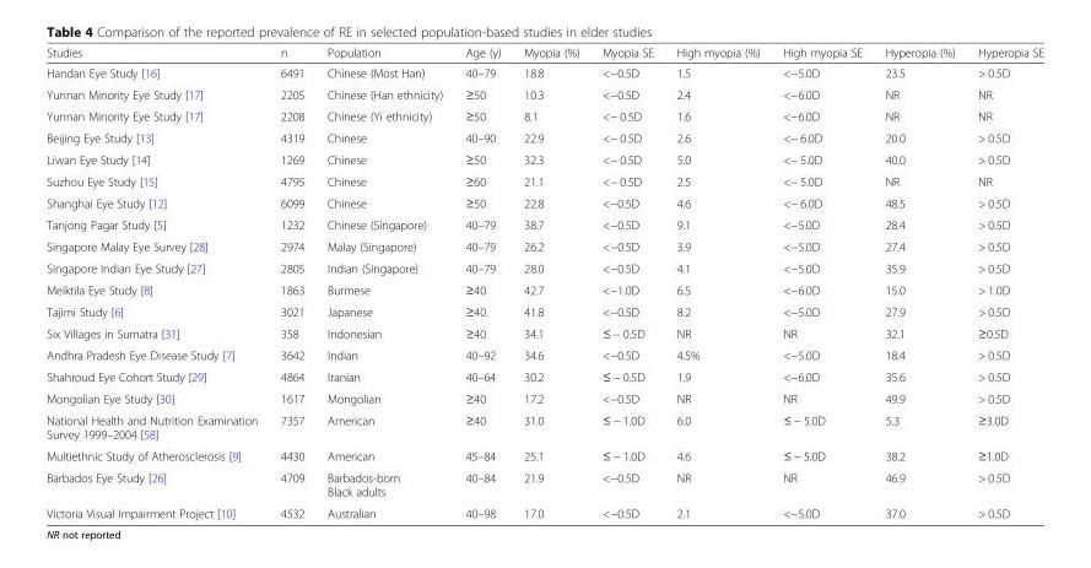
<table><thead><tr><td>Studies</td><td>n</td><td>Population</td><td>Age (y)</td><td>Myopia (%)</td><td>Myopia SE</td><td>High myopia (%)</td><td>High myopia SE</td><td>Hyperopia (%)</td><td>Hyperopia SE</td></tr></thead><tbody><tr><td>Handan Eye Study [16]</td><td>6491</td><td>Chinese (Most Han)</td><td>40–79</td><td>18.8</td><td>&lt;−0.5D</td><td>1.5</td><td>&lt;−5.0D</td><td>23.5</td><td>&gt; 0.5D</td></tr><tr><td>Yunnan Minority Eye Study [17]</td><td>2205</td><td>Chinese (Han ethnicity)</td><td>≥50</td><td>10.3</td><td>&lt;−0.5D</td><td>2.4</td><td>&lt;−6.0D</td><td>NR</td><td>NR</td></tr><tr><td>Yunnan Minority Eye Study [17]</td><td>2208</td><td>Chinese (Yi ethnicity)</td><td>≥50</td><td>8.1</td><td>&lt;− 0.5D</td><td>1.6</td><td>&lt;−6.0D</td><td>NR</td><td>NR</td></tr><tr><td>Beijing Eye Study [13]</td><td>4319</td><td>Chinese</td><td>40–90</td><td>22.9</td><td>&lt;− 0.5D</td><td>2.6</td><td>&lt;− 6.0D</td><td>20.0</td><td>&gt; 0.5D</td></tr><tr><td>Liwan Eye Study [14]</td><td>1269</td><td>Chinese</td><td>≥50</td><td>32.3</td><td>&lt;− 0.5D</td><td>5.0</td><td>&lt;− 5.0D</td><td>40.0</td><td>&gt; 0.5D</td></tr><tr><td>Suzhou Eye Study [15]</td><td>4795</td><td>Chinese</td><td>≥60</td><td>21.1</td><td>&lt;− 0.5D</td><td>2.5</td><td>&lt;− 5.0D</td><td>NR</td><td>NR</td></tr><tr><td>Shanghai Eye Study [12]</td><td>6099</td><td>Chinese</td><td>≥50</td><td>22.8</td><td>&lt;−0.5D</td><td>4.6</td><td>&lt;− 6.0D</td><td>48.5</td><td>&gt; 0.5D</td></tr><tr><td>Tanjong Pagar Study [5]</td><td>1232</td><td>Chinese (Singapore)</td><td>40–79</td><td>38.7</td><td>&lt;−0.5D</td><td>9.1</td><td>&lt;−5.0D</td><td>28.4</td><td>&gt; 0.5D</td></tr><tr><td>Singapore Malay Eye Survey [28]</td><td>2974</td><td>Malay (Singapore)</td><td>40–79</td><td>26.2</td><td>&lt;−0.5D</td><td>3.9</td><td>&lt;−5.0D</td><td>27.4</td><td>&gt; 0.5D</td></tr><tr><td>Singapore Indian Eye Study [27]</td><td>2805</td><td>Indian (Singapore)</td><td>40–79</td><td>28.0</td><td>&lt;−0.5D</td><td>4.1</td><td>&lt;−5.0D</td><td>35.9</td><td>&gt; 0.5D</td></tr><tr><td>Meiktila Eye Study [8]</td><td>1863</td><td>Burmese</td><td>≥40</td><td>42.7</td><td>&lt;−1.0D</td><td>6.5</td><td>&lt;−6.0D</td><td>15.0</td><td>&gt; 1.0D</td></tr><tr><td>Tajimi Study [6]</td><td>3021</td><td>Japanese</td><td>≥40</td><td>41.8</td><td>&lt;−0.5D</td><td>8.2</td><td>&lt;−5.0D</td><td>27.9</td><td>&gt; 0.5D</td></tr><tr><td>Six Villages in Sumatra [31]</td><td>358</td><td>Indonesian</td><td>≥40</td><td>34.1</td><td>≤ − 0.5D</td><td>NR</td><td>NR</td><td>32.1</td><td>≥0.5D</td></tr><tr><td>Andhra Pradesh Eye Disease Study [7]</td><td>3642</td><td>Indian</td><td>40–92</td><td>34.6</td><td>&lt;−0.5D</td><td>4.5%</td><td>&lt;−5.0D</td><td>18.4</td><td>&gt; 0.5D</td></tr><tr><td>Shahroud Eye Cohort Study [29]</td><td>4864</td><td>Iranian</td><td>40–64</td><td>30.2</td><td>≤ − 0.5D</td><td>1.9</td><td>&lt;−6.0D</td><td>35.6</td><td>&gt; 0.5D</td></tr><tr><td>Mongolian Eye Study [30]</td><td>1617</td><td>Mongolian</td><td>≥40</td><td>17.2</td><td>&lt;−0.5D</td><td>NR</td><td>NR</td><td>49.9</td><td>&gt; 0.5D</td></tr><tr><td>National Health and Nutrition Examination Survey 1999–2004 [58]</td><td>7357</td><td>American</td><td>≥40</td><td>31.0</td><td>≤ − 1.0D</td><td>6.0</td><td>≤ − 5.0D</td><td>5.3</td><td>≥3.0D</td></tr><tr><td>Multiethnic Study of Atherosclerosis [9]</td><td>4430</td><td>American</td><td>45–84</td><td>25.1</td><td>≤ − 1.0D</td><td>4.6</td><td>≤ − 5.0D</td><td>38.2</td><td>≥1.0D</td></tr><tr><td>Barbados Eye Study [26]</td><td>4709</td><td>Barbados-born Black adults</td><td>40–84</td><td>21.9</td><td>&lt;−0.5D</td><td>NR</td><td>NR</td><td>46.9</td><td>&gt; 0.5D</td></tr><tr><td>Victoria Visual Impairment Project [10]</td><td>4532</td><td>Australian</td><td>40–98</td><td>17.0</td><td>&lt;−0.5D</td><td>2.1</td><td>&lt;−5.0D</td><td>37.0</td><td>&gt; 0.5D</td></tr></tbody></table>